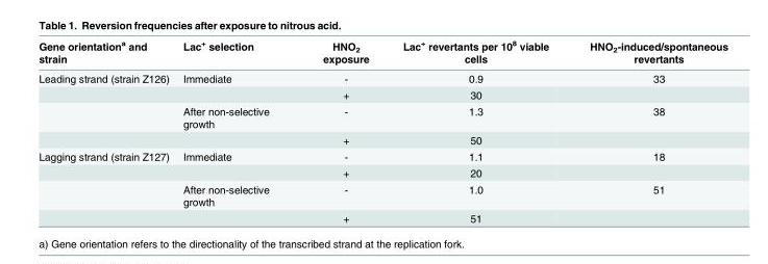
<table><thead><tr><td>Gene orientation<sup>a</sup> and strain</td><td>Lac<sup>+</sup> selection</td><td>HNO<sub>2</sub> exposure</td><td>Lac<sup>+</sup> revertants per 10<sup>8</sup> viable cells</td><td>HNO<sub>2</sub>-induced/spontaneous revertants</td></tr></thead><tbody><tr><td rowspan="4">Leading strand (strain Z126)</td><td>Immediate</td><td>-</td><td>0.9</td><td>33</td></tr><tr><td></td><td>+</td><td>30</td><td></td></tr><tr><td>After non-selective growth</td><td>-</td><td>1.3</td><td>38</td></tr><tr><td></td><td>+</td><td>50</td><td></td></tr><tr><td rowspan="4">Lagging strand (strain Z127)</td><td>Immediate</td><td>-</td><td>1.1</td><td>18</td></tr><tr><td></td><td>+</td><td>20</td><td></td></tr><tr><td>After non-selective growth</td><td>-</td><td>1.0</td><td>51</td></tr><tr><td></td><td>+</td><td>51</td><td></td></tr></tbody></table>